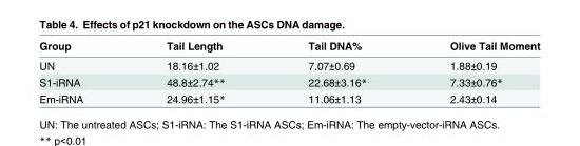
<table><thead><tr><td>Group</td><td>Tail Length</td><td>Tail DNA%</td><td>Olive Tail Moment</td></tr></thead><tbody><tr><td>UN</td><td>18.16±1.02</td><td>7.07±0.69</td><td>1.88±0.19</td></tr><tr><td>S1-iRNA</td><td>48.8±2.74**</td><td>22.68±3.16*</td><td>7.33±0.76*</td></tr><tr><td>Em-iRNA</td><td>24.96±1.15*</td><td>11.06±1.13</td><td>2.43±0.14</td></tr></tbody></table>